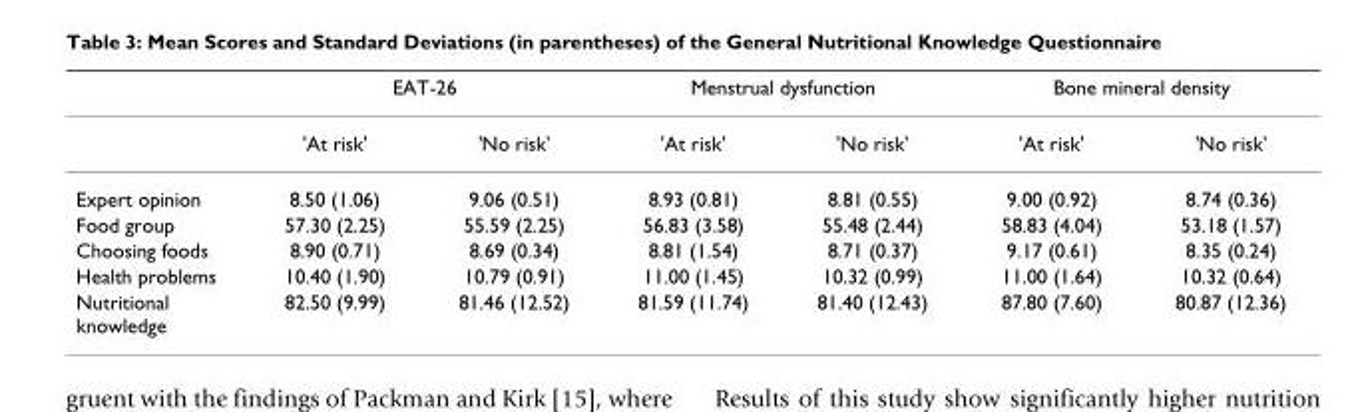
<table><thead><tr><td rowspan="2"></td><td colspan="2">EAT-26</td><td colspan="2">Menstrual dysfunction</td><td colspan="2">Bone mineral density</td></tr><tr><td>&#x27;At risk&#x27;</td><td>&#x27;No risk&#x27;</td><td>&#x27;At risk&#x27;</td><td>&#x27;No risk&#x27;</td><td>&#x27;At risk&#x27;</td><td>&#x27;No risk&#x27;</td></tr></thead><tbody><tr><td>Expert opinion</td><td>8.50 (1.06)</td><td>9.06 (0.51)</td><td>8.93 (0.81)</td><td>8.81 (0.55)</td><td>9.00 (0.92)</td><td>8.74 (0.36)</td></tr><tr><td>Food group</td><td>57.30 (2.25)</td><td>55.59 (2.25)</td><td>56.83 (3.58)</td><td>55.48 (2.44)</td><td>58.83 (4.04)</td><td>53.18 (1.57)</td></tr><tr><td>Choosing foods</td><td>8.90 (0.71)</td><td>8.69 (0.34)</td><td>8.81 (1.54)</td><td>8.71 (0.37)</td><td>9.17 (0.61)</td><td>8.35 (0.24)</td></tr><tr><td>Health problems</td><td>10.40 (1.90)</td><td>10.79 (0.91)</td><td>11.00 (1.45)</td><td>10.32 (0.99)</td><td>11.00 (1.64)</td><td>10.32 (0.64)</td></tr><tr><td>Nutritional knowledge</td><td>82.50 (9.99)</td><td>81.46 (12.52)</td><td>81.59 (11.74)</td><td>81.40 (12.43)</td><td>87.80 (7.60)</td><td>80.87 (12.36)</td></tr></tbody></table>